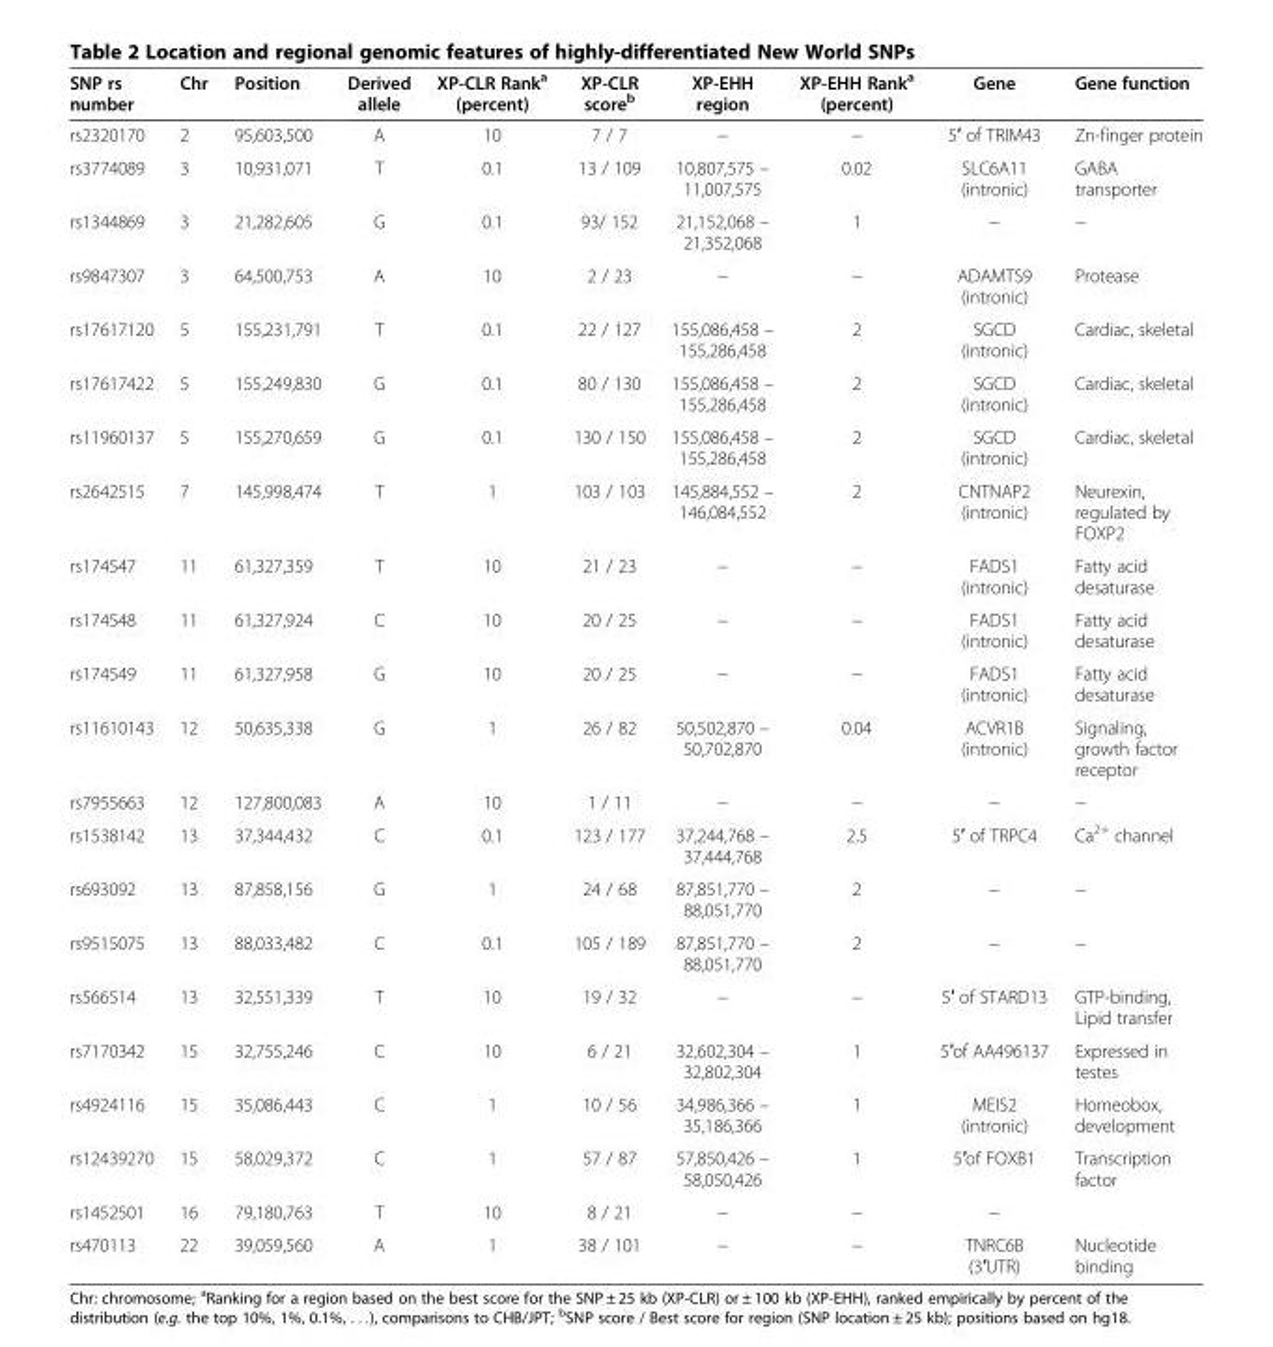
<table><thead><tr><td>SNP rs number</td><td>Chr</td><td>Position</td><td>Derived allele</td><td>XP-CLR Rank<sup>a</sup> (percent)</td><td>XP-CLR score<sup>b</sup></td><td>XP-EHH region</td><td>XP-EHH Rank<sup>a</sup> (percent)</td><td>Gene</td><td>Gene function</td></tr></thead><tbody><tr><td>rs2320170</td><td>2</td><td>95,603,500</td><td>A</td><td>10</td><td>7 / 7</td><td>−</td><td>−</td><td>5′ of TRIM43</td><td>Zn-finger protein</td></tr><tr><td>rs3774089</td><td>3</td><td>10,931,071</td><td>T</td><td>0.1</td><td>13 / 109</td><td>10,807,575 – 11,007,575</td><td>0.02</td><td>SLC6A11 (intronic)</td><td>GABA transporter</td></tr><tr><td>rs1344869</td><td>3</td><td>21,282,605</td><td>G</td><td>0.1</td><td>93/ 152</td><td>21,152,068 – 21,352,068</td><td>1</td><td>−</td><td>−</td></tr><tr><td>rs9847307</td><td>3</td><td>64,500,753</td><td>A</td><td>10</td><td>2 / 23</td><td>−</td><td>−</td><td>ADAMTS9 (intronic)</td><td>Protease</td></tr><tr><td>rs17617120</td><td>5</td><td>155,231,791</td><td>T</td><td>0.1</td><td>22 / 127</td><td>155,086,458 – 155,286,458</td><td>2</td><td>SGCD (intronic)</td><td>Cardiac, skeletal</td></tr><tr><td>rs17617422</td><td>5</td><td>155,249,830</td><td>G</td><td>0.1</td><td>80 / 130</td><td>155,086,458 – 155,286,458</td><td>2</td><td>SGCD (intronic)</td><td>Cardiac, skeletal</td></tr><tr><td>rs11960137</td><td>5</td><td>155,270,659</td><td>G</td><td>0.1</td><td>130 / 150</td><td>155,086,458 – 155,286,458</td><td>2</td><td>SGCD (intronic)</td><td>Cardiac, skeletal</td></tr><tr><td>rs2642515</td><td>7</td><td>145,998,474</td><td>T</td><td>1</td><td>103 / 103</td><td>145,884,552 – 146,084,552</td><td>2</td><td>CNTNAP2 (intronic)</td><td>Neurexin, regulated by FOXP2</td></tr><tr><td>rs174547</td><td>11</td><td>61,327,359</td><td>T</td><td>10</td><td>21 / 23</td><td>−</td><td>−</td><td>FADS1 (intronic)</td><td>Fatty acid desaturase</td></tr><tr><td>rs174548</td><td>11</td><td>61,327,924</td><td>C</td><td>10</td><td>20 / 25</td><td>−</td><td>−</td><td>FADS1 (intronic)</td><td>Fatty acid desaturase</td></tr><tr><td>rs174549</td><td>11</td><td>61,327,958</td><td>G</td><td>10</td><td>20 / 25</td><td>−</td><td>−</td><td>FADS1 (intronic)</td><td>Fatty acid desaturase</td></tr><tr><td>rs11610143</td><td>12</td><td>50,635,338</td><td>G</td><td>1</td><td>26 / 82</td><td>50,502,870 – 50,702,870</td><td>0.04</td><td>ACVR1B (intronic)</td><td>Signaling, growth factor receptor</td></tr><tr><td>rs7955663</td><td>12</td><td>127,800,083</td><td>A</td><td>10</td><td>1 / 11</td><td>−</td><td>−</td><td>−</td><td>−</td></tr><tr><td>rs1538142</td><td>13</td><td>37,344,432</td><td>C</td><td>0.1</td><td>123 / 177</td><td>37,244,768 – 37,444,768</td><td>2.5</td><td>5′ of TRPC4</td><td>Ca<sup>2+</sup> channel</td></tr><tr><td>rs693092</td><td>13</td><td>87,858,156</td><td>G</td><td>1</td><td>24 / 68</td><td>87,851,770 – 88,051,770</td><td>2</td><td>−</td><td>−</td></tr><tr><td>rs9515075</td><td>13</td><td>88,033,482</td><td>C</td><td>0.1</td><td>105 / 189</td><td>87,851,770 – 88,051,770</td><td>2</td><td>−</td><td>−</td></tr><tr><td>rs566514</td><td>13</td><td>32,551,339</td><td>T</td><td>10</td><td>19 / 32</td><td>−</td><td>−</td><td>5′ of STARD13</td><td>GTP-binding, Lipid transfer</td></tr><tr><td>rs7170342</td><td>15</td><td>32,755,246</td><td>C</td><td>10</td><td>6 / 21</td><td>32,602,304 – 32,802,304</td><td>1</td><td>5′of AA496137</td><td>Expressed in testes</td></tr><tr><td>rs4924116</td><td>15</td><td>35,086,443</td><td>C</td><td>1</td><td>10 / 56</td><td>34,986,366 – 35,186,366</td><td>1</td><td>MEIS2 (intronic)</td><td>Homeobox, development</td></tr><tr><td>rs12439270</td><td>15</td><td>58,029,372</td><td>C</td><td>1</td><td>57 / 87</td><td>57,850,426 – 58,050,426</td><td>1</td><td>5′of FOXB1</td><td>Transcription factor</td></tr><tr><td>rs1452501</td><td>16</td><td>79,180,763</td><td>T</td><td>10</td><td>8 / 21</td><td>−</td><td>−</td><td>−</td><td></td></tr><tr><td>rs470113</td><td>22</td><td>39,059,560</td><td>A</td><td>1</td><td>38 / 101</td><td>−</td><td>−</td><td>TNRC6B (3′UTR)</td><td>Nucleotide binding</td></tr></tbody></table>